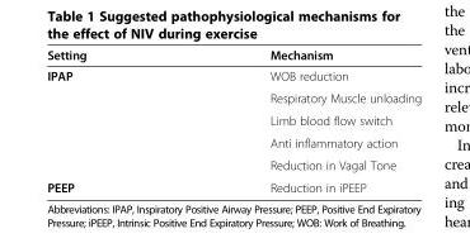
<table><thead><tr><td>Setting</td><td>Mechanism</td></tr></thead><tbody><tr><td rowspan="5">IPAP</td><td>WOB reduction</td></tr><tr><td>Respiratory Muscle unloading</td></tr><tr><td>Limb blood flow switch</td></tr><tr><td>Anti inflammatory action</td></tr><tr><td>Reduction in Vagal Tone</td></tr><tr><td>PEEP</td><td>Reduction in iPEEP</td></tr></tbody></table>